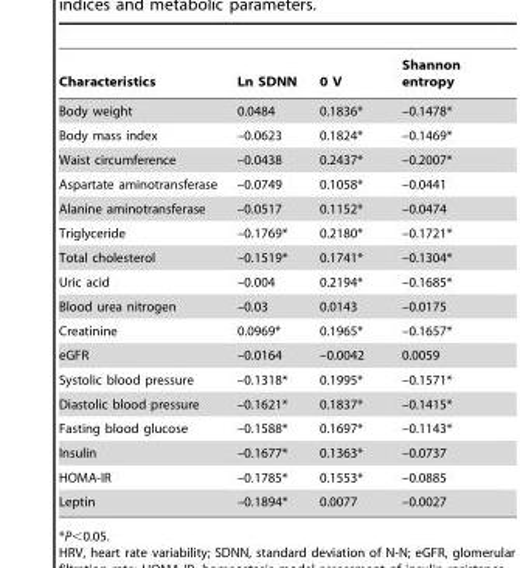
<table><thead><tr><td>Characteristics</td><td>Ln SDNN</td><td>0 V</td><td>Shannon entropy</td></tr></thead><tbody><tr><td>Body weight</td><td>0.0484</td><td>0.1836*</td><td>–0.1478*</td></tr><tr><td>Body mass index</td><td>–0.0623</td><td>0.1824*</td><td>–0.1469*</td></tr><tr><td>Waist circumference</td><td>–0.0438</td><td>0.2437*</td><td>–0.2007*</td></tr><tr><td>Aspartate aminotransferase</td><td>–0.0749</td><td>0.1058*</td><td>–0.0441</td></tr><tr><td>Alanine aminotransferase</td><td>–0.0517</td><td>0.1152*</td><td>–0.0474</td></tr><tr><td>Triglyceride</td><td>–0.1769*</td><td>0.2180*</td><td>–0.1721*</td></tr><tr><td>Total cholesterol</td><td>–0.1519*</td><td>0.1741*</td><td>–0.1304*</td></tr><tr><td>Uric acid</td><td>–0.004</td><td>0.2194*</td><td>–0.1685*</td></tr><tr><td>Blood urea nitrogen</td><td>–0.03</td><td>0.0143</td><td>–0.0175</td></tr><tr><td>Creatinine</td><td>0.0969*</td><td>0.1965*</td><td>–0.1657*</td></tr><tr><td>eGFR</td><td>–0.0164</td><td>–0.0042</td><td>0.0059</td></tr><tr><td>Systolic blood pressure</td><td>–0.1318*</td><td>0.1995*</td><td>–0.1571*</td></tr><tr><td>Diastolic blood pressure</td><td>–0.1621*</td><td>0.1837*</td><td>–0.1415*</td></tr><tr><td>Fasting blood glucose</td><td>–0.1588*</td><td>0.1697*</td><td>–0.1143*</td></tr><tr><td>Insulin</td><td>–0.1677*</td><td>0.1363*</td><td>–0.0737</td></tr><tr><td>HOMA-IR</td><td>–0.1785*</td><td>0.1553*</td><td>–0.0885</td></tr><tr><td>Leptin</td><td>–0.1894*</td><td>0.0077</td><td>–0.0027</td></tr></tbody></table>